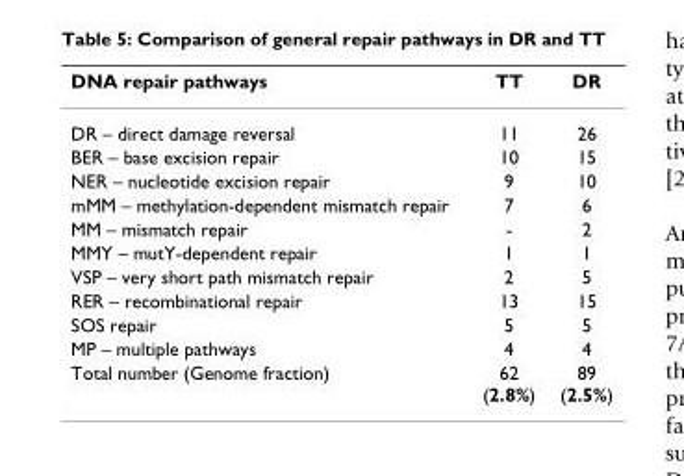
<table><thead><tr><td>DNA repair pathways</td><td>TT</td><td>DR</td></tr></thead><tbody><tr><td>DR – direct damage reversal</td><td>11</td><td>26</td></tr><tr><td>BER – base excision repair</td><td>10</td><td>15</td></tr><tr><td>NER – nucleotide excision repair</td><td>9</td><td>10</td></tr><tr><td>mMM – methylation-dependent mismatch repair</td><td>7</td><td>6</td></tr><tr><td>MM – mismatch repair</td><td>-</td><td>2</td></tr><tr><td>MMY – mutY-dependent repair</td><td>1</td><td>1</td></tr><tr><td>VSP – very short path mismatch repair</td><td>2</td><td>5</td></tr><tr><td>RER – recombinational repair</td><td>13</td><td>15</td></tr><tr><td>SOS repair</td><td>5</td><td>5</td></tr><tr><td>MP – multiple pathways</td><td>4</td><td>4</td></tr><tr><td>Total number (Genome fraction)</td><td>62 (2.8%)</td><td>89 (2.5%)</td></tr></tbody></table>